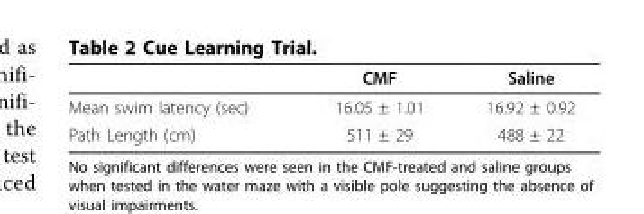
<table><thead><tr><td></td><td>CMF</td><td>Saline</td></tr></thead><tbody><tr><td>Mean swim latency (sec)</td><td>16.05 ± 1.01</td><td>16.92 ± 0.92</td></tr><tr><td>Path Length (cm)</td><td>511 ± 29</td><td>488 ± 22</td></tr></tbody></table>